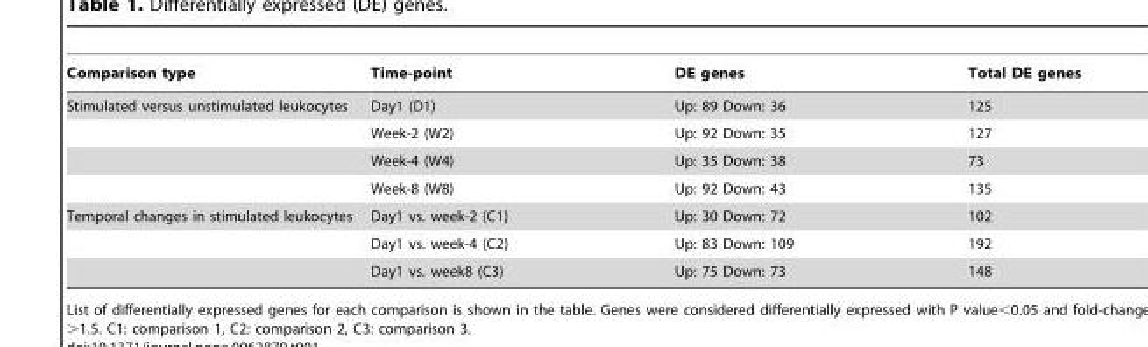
<table><thead><tr><td>Comparison type</td><td>Time-point</td><td>DE genes</td><td>Total DE genes</td></tr></thead><tbody><tr><td rowspan="4">Stimulated versus unstimulated leukocytes</td><td>Day1 (D1)</td><td>Up: 89 Down: 36</td><td>125</td></tr><tr><td>Week-2 (W2)</td><td>Up: 92 Down: 35</td><td>127</td></tr><tr><td>Week-4 (W4)</td><td>Up: 35 Down: 38</td><td>73</td></tr><tr><td>Week-8 (W8)</td><td>Up: 92 Down: 43</td><td>135</td></tr><tr><td rowspan="3">Temporal changes in stimulated leukocytes</td><td>Day1 vs. week-2 (C1)</td><td>Up: 30 Down: 72</td><td>102</td></tr><tr><td>Day1 vs. week-4 (C2)</td><td>Up: 83 Down: 109</td><td>192</td></tr><tr><td>Day1 vs. week8 (C3)</td><td>Up: 75 Down: 73</td><td>148</td></tr></tbody></table>